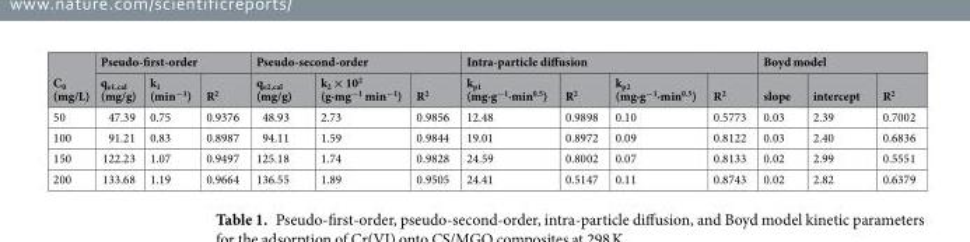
<table><thead><tr><td rowspan="2">C<sub>0</sub> (mg/L)</td><td colspan="3">Pseudo-first-order</td><td colspan="3">Pseudo-second-order</td><td colspan="4">Intra-particle diffusion</td><td colspan="3">Boyd model</td></tr><tr><td>q<sub>e1,cal</sub> (mg/g)</td><td>k<sub>1</sub> (min<sup>−1</sup>)</td><td>R<sup>2</sup></td><td>q<sub>e2,cal</sub> (mg/g)</td><td>k<sub>2</sub> × 10<sup>2</sup> (g·mg<sup>−1</sup> min<sup>−1</sup>)</td><td>R<sup>2</sup></td><td>k<sub>p1</sub> (mg·g<sup>−1</sup>·min<sup>0.5</sup>)</td><td>R<sup>2</sup></td><td>k<sub>p2</sub> (mg·g<sup>−1</sup>·min<sup>0.5</sup>)</td><td>R<sup>2</sup></td><td>slope</td><td>intercept</td><td>R<sup>2</sup></td></tr></thead><tbody><tr><td>50</td><td>47.39</td><td>0.75</td><td>0.9376</td><td>48.93</td><td>2.73</td><td>0.9856</td><td>12.48</td><td>0.9898</td><td>0.10</td><td>0.5773</td><td>0.03</td><td>2.39</td><td>0.7002</td></tr><tr><td>100</td><td>91.21</td><td>0.83</td><td>0.8987</td><td>94.11</td><td>1.59</td><td>0.9844</td><td>19.01</td><td>0.8972</td><td>0.09</td><td>0.8122</td><td>0.03</td><td>2.40</td><td>0.6836</td></tr><tr><td>150</td><td>122.23</td><td>1.07</td><td>0.9497</td><td>125.18</td><td>1.74</td><td>0.9828</td><td>24.59</td><td>0.8002</td><td>0.07</td><td>0.8133</td><td>0.02</td><td>2.99</td><td>0.5551</td></tr><tr><td>200</td><td>133.68</td><td>1.19</td><td>0.9664</td><td>136.55</td><td>1.89</td><td>0.9505</td><td>24.41</td><td>0.5147</td><td>0.11</td><td>0.8743</td><td>0.02</td><td>2.82</td><td>0.6379</td></tr></tbody></table>